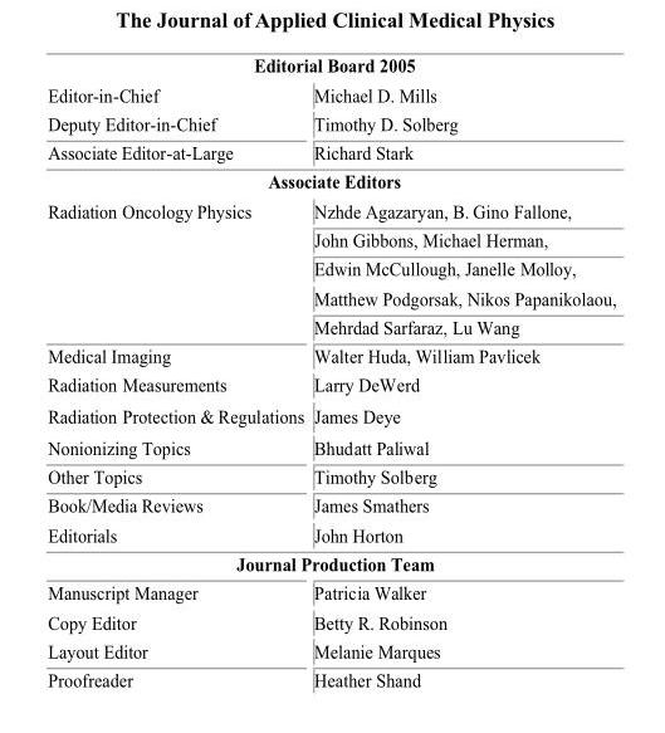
<table><thead><tr><td colspan="2">Editorial Board 2005</td></tr><tr><td>Editor-in-Chief</td><td>Michael D. Mills</td></tr></thead><tbody><tr><td>Deputy Editor-in-Chief</td><td>Timothy D. Solberg</td></tr><tr><td>Associate Editor-at-Large</td><td>Richard Stark</td></tr><tr><td colspan="2">Associate Editors</td></tr><tr><td rowspan="5">Radiation Oncology Physics</td><td>Nzhde Agazaryan, B. Gino Fallone,</td></tr><tr><td>John Gibbons, Michael Herman,</td></tr><tr><td>Edwin McCullough, Janelle Molloy,</td></tr><tr><td>Matthew Podgorsak, Nikos Papanikolaou,</td></tr><tr><td>Mehrdad Sarfaraz, Lu Wang</td></tr><tr><td>Medical Imaging</td><td>Walter Huda, William Pavlicek</td></tr><tr><td>Radiation Measurements</td><td>Larry DeWerd</td></tr><tr><td>Radiation Protection &amp; Regulations</td><td>James Deye</td></tr><tr><td>Nonionizing Topics</td><td>Bhudatt Paliwal</td></tr><tr><td>Other Topics</td><td>Timothy Solberg</td></tr><tr><td>Book/Media Reviews</td><td>James Smathers</td></tr><tr><td>Editorials</td><td>John Horton</td></tr><tr><td colspan="2">Journal Production Team</td></tr><tr><td>Manuscript Manager</td><td>Patricia Walker</td></tr><tr><td>Copy Editor</td><td>Betty R. Robinson</td></tr><tr><td>Layout Editor</td><td>Melanie Marques</td></tr><tr><td>Proofreader</td><td>Heather Shand</td></tr></tbody></table>